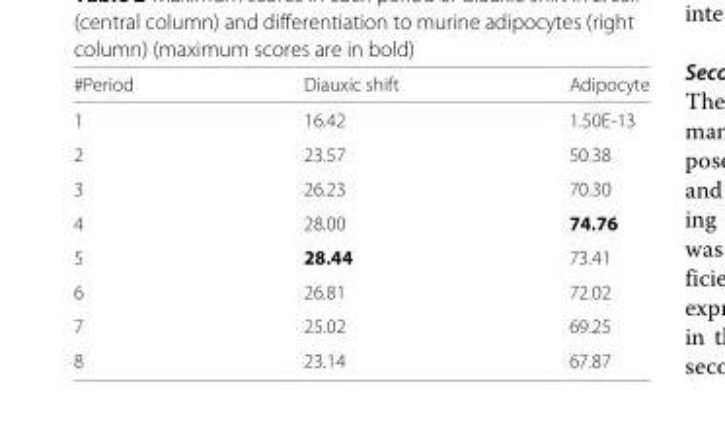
<table><thead><tr><td>#Period</td><td>Diauxic shift</td><td>Adipocyte</td></tr></thead><tbody><tr><td>1</td><td>16.42</td><td>1.50E-13</td></tr><tr><td>2</td><td>23.57</td><td>50.38</td></tr><tr><td>3</td><td>26.23</td><td>70.30</td></tr><tr><td>4</td><td>28.00</td><td>74.76</td></tr><tr><td>5</td><td>28.44</td><td>73.41</td></tr><tr><td>6</td><td>26.81</td><td>72.02</td></tr><tr><td>7</td><td>25.02</td><td>69.25</td></tr><tr><td>8</td><td>23.14</td><td>67.87</td></tr></tbody></table>